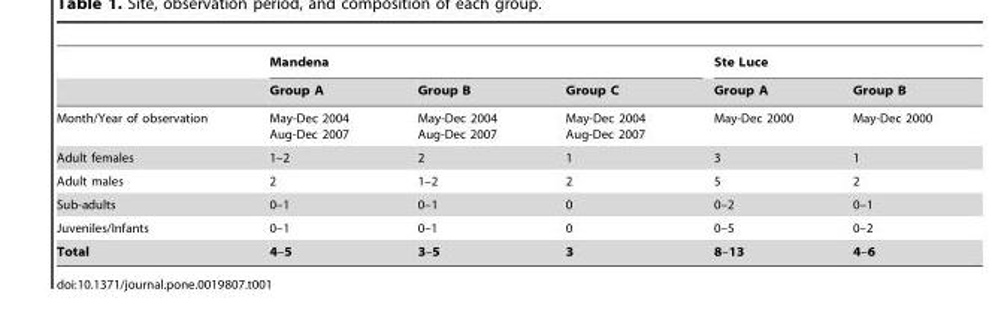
<table><thead><tr><td rowspan="2"></td><td colspan="3">Mandena</td><td colspan="2">Ste Luce</td></tr><tr><td>Group A</td><td>Group B</td><td>Group C</td><td>Group A</td><td>Group B</td></tr></thead><tbody><tr><td>Month/Year of observation</td><td>May-Dec 2004 Aug-Dec 2007</td><td>May-Dec 2004 Aug-Dec 2007</td><td>May-Dec 2004 Aug-Dec 2007</td><td>May-Dec 2000</td><td>May-Dec 2000</td></tr><tr><td>Adult females</td><td>1–2</td><td>2</td><td>1</td><td>3</td><td>1</td></tr><tr><td>Adult males</td><td>2</td><td>1–2</td><td>2</td><td>5</td><td>2</td></tr><tr><td>Sub-adults</td><td>0–1</td><td>0–1</td><td>0</td><td>0–2</td><td>0–1</td></tr><tr><td>Juveniles/Infants</td><td>0–1</td><td>0–1</td><td>0</td><td>0–5</td><td>0–2</td></tr><tr><td>Total</td><td>4–5</td><td>3–5</td><td>3</td><td>8–13</td><td>4–6</td></tr></tbody></table>